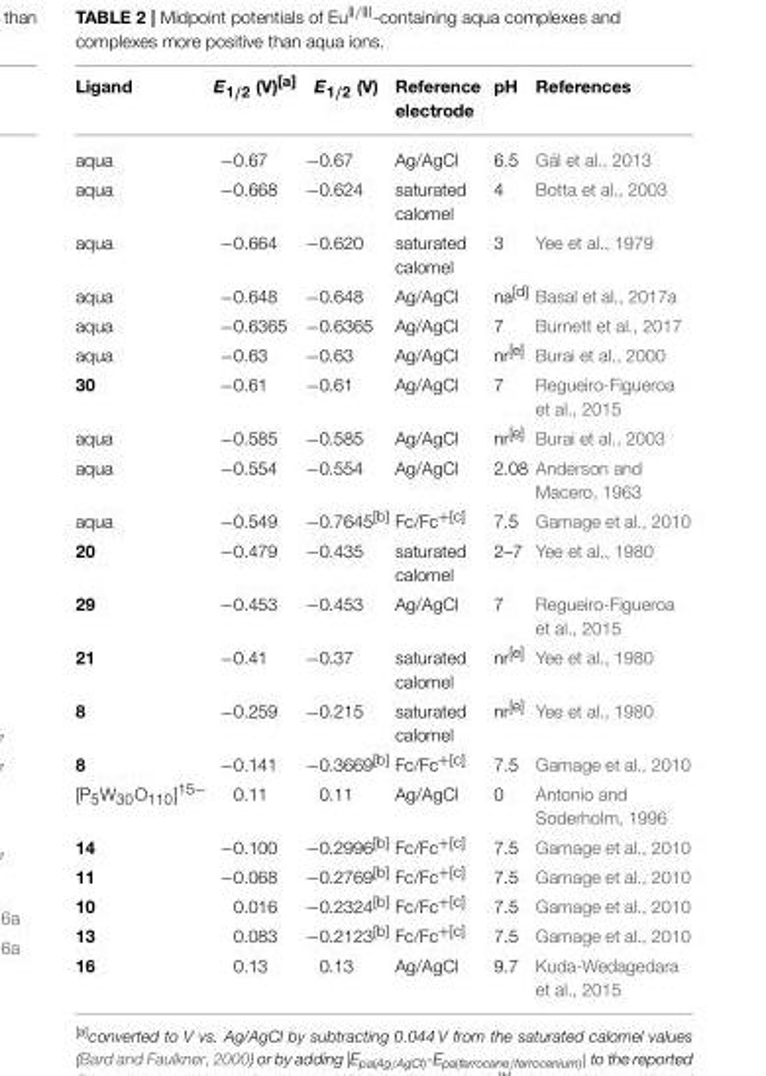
<table><thead><tr><td>Ligand</td><td>E<sub>1/2</sub> (V)<sup>[a]</sup></td><td>E<sub>1/2</sub> (V)</td><td>Reference electrode</td><td>pH</td><td>References</td></tr></thead><tbody><tr><td>aqua</td><td>−0.67</td><td>−0.67</td><td>Ag/AgCl</td><td>6.5</td><td>Gál et al., 2013</td></tr><tr><td>aqua</td><td>−0.668</td><td>−0.624</td><td>saturated calomel</td><td>4</td><td>Botta et al., 2003</td></tr><tr><td>aqua</td><td>−0.664</td><td>−0.620</td><td>saturated calomel</td><td>3</td><td>Yee et al., 1979</td></tr><tr><td>aqua</td><td>−0.648</td><td>−0.648</td><td>Ag/AgCl</td><td>na<sup>[d]</sup></td><td>Basal et al., 2017a</td></tr><tr><td>aqua</td><td>−0.6365</td><td>−0.6365</td><td>Ag/AgCl</td><td>7</td><td>Burnett et al., 2017</td></tr><tr><td>aqua</td><td>−0.63</td><td>−0.63</td><td>Ag/AgCl</td><td>nr<sup>[e]</sup></td><td>Burai et al., 2000</td></tr><tr><td>30</td><td>−0.61</td><td>−0.61</td><td>Ag/AgCl</td><td>7</td><td>Regueiro-Figueroa et al., 2015</td></tr><tr><td>aqua</td><td>−0.585</td><td>−0.585</td><td>Ag/AgCl</td><td>nr<sup>[e]</sup></td><td>Burai et al., 2003</td></tr><tr><td>aqua</td><td>−0.554</td><td>−0.554</td><td>Ag/AgCl</td><td>2.08</td><td>Anderson and Macero, 1963</td></tr><tr><td>aqua</td><td>−0.549</td><td>−0.7645<sup>[b]</sup></td><td>Fc/Fc<sup>+[c]</sup></td><td>7.5</td><td>Gamage et al., 2010</td></tr><tr><td>20</td><td>−0.479</td><td>−0.435</td><td>saturated calomel</td><td>2–7</td><td>Yee et al., 1980</td></tr><tr><td>29</td><td>−0.453</td><td>−0.453</td><td>Ag/AgCl</td><td>7</td><td>Regueiro-Figueroa et al., 2015</td></tr><tr><td>21</td><td>−0.41</td><td>−0.37</td><td>saturated calomel</td><td>nr<sup>[e]</sup></td><td>Yee et al., 1980</td></tr><tr><td>8</td><td>−0.259</td><td>−0.215</td><td>saturated calomel</td><td>nr<sup>[e]</sup></td><td>Yee et al., 1980</td></tr><tr><td>8</td><td>−0.141</td><td>−0.3669<sup>[b]</sup></td><td>Fc/Fc<sup>+[c]</sup></td><td>7.5</td><td>Gamage et al., 2010</td></tr><tr><td>[P<sub>5</sub>W<sub>30</sub>O<sub>110</sub>]<sup>15−</sup></td><td>0.11</td><td>0.11</td><td>Ag/AgCl</td><td>0</td><td>Antonio and Soderholm, 1996</td></tr><tr><td>14</td><td>−0.100</td><td>−0.2996<sup>[b]</sup></td><td>Fc/Fc<sup>+[c]</sup></td><td>7.5</td><td>Gamage et al., 2010</td></tr><tr><td>11</td><td>−0.068</td><td>−0.2769<sup>[b]</sup></td><td>Fc/Fc<sup>+[c]</sup></td><td>7.5</td><td>Gamage et al., 2010</td></tr><tr><td>10</td><td>0.016</td><td>−0.2324<sup>[b]</sup></td><td>Fc/Fc<sup>+[c]</sup></td><td>7.5</td><td>Gamage et al., 2010</td></tr><tr><td>13</td><td>0.083</td><td>−0.2123<sup>[b]</sup></td><td>Fc/Fc<sup>+[c]</sup></td><td>7.5</td><td>Gamage et al., 2010</td></tr><tr><td>16</td><td>0.13</td><td>0.13</td><td>Ag/AgCl</td><td>9.7</td><td>Kuda-Wedagedara et al., 2015</td></tr></tbody></table>